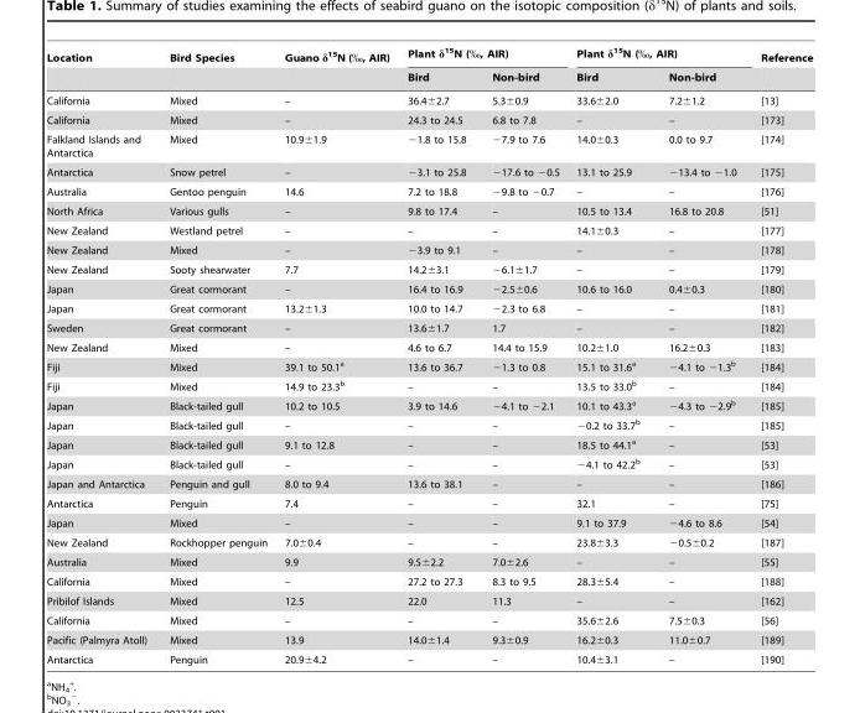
<table><thead><tr><td rowspan="2">Location</td><td rowspan="2">Bird Species</td><td rowspan="2">Guano δ<sup>15</sup>N (‰, AIR)</td><td colspan="2">Plant δ<sup>15</sup>N (‰, AIR)</td><td colspan="2">Plant δ<sup>15</sup>N (‰, AIR)</td><td rowspan="2">Reference</td></tr><tr><td>Bird</td><td>Non-bird</td><td>Bird</td><td>Non-bird</td></tr></thead><tbody><tr><td>California</td><td>Mixed</td><td>–</td><td>36.4±2.7</td><td>5.3±0.9</td><td>33.6±2.0</td><td>7.2±1.2</td><td>[13]</td></tr><tr><td>California</td><td>Mixed</td><td>–</td><td>24.3 to 24.5</td><td>6.8 to 7.8</td><td>–</td><td>–</td><td>[173]</td></tr><tr><td>Falkland Islands and Antarctica</td><td>Mixed</td><td>10.9±1.9</td><td>−1.8 to 15.8</td><td>−7.9 to 7.6</td><td>14.0±0.3</td><td>0.0 to 9.7</td><td>[174]</td></tr><tr><td>Antarctica</td><td>Snow petrel</td><td>–</td><td>−3.1 to 25.8</td><td>−17.6 to −0.5</td><td>13.1 to 25.9</td><td>−13.4 to −1.0</td><td>[175]</td></tr><tr><td>Australia</td><td>Gentoo penguin</td><td>14.6</td><td>7.2 to 18.8</td><td>−9.8 to −0.7</td><td>–</td><td>–</td><td>[176]</td></tr><tr><td>North Africa</td><td>Various gulls</td><td>–</td><td>9.8 to 17.4</td><td>–</td><td>10.5 to 13.4</td><td>16.8 to 20.8</td><td>[51]</td></tr><tr><td>New Zealand</td><td>Westland petrel</td><td>–</td><td>–</td><td>–</td><td>14.1±0.3</td><td>–</td><td>[177]</td></tr><tr><td>New Zealand</td><td>Mixed</td><td>–</td><td>−3.9 to 9.1</td><td>–</td><td>–</td><td>–</td><td>[178]</td></tr><tr><td>New Zealand</td><td>Sooty shearwater</td><td>7.7</td><td>14.2±3.1</td><td>−6.1±1.7</td><td>–</td><td>–</td><td>[179]</td></tr><tr><td>Japan</td><td>Great cormorant</td><td>–</td><td>16.4 to 16.9</td><td>−2.5±0.6</td><td>10.6 to 16.0</td><td>0.4±0.3</td><td>[180]</td></tr><tr><td>Japan</td><td>Great cormorant</td><td>13.2±1.3</td><td>10.0 to 14.7</td><td>−2.3 to 6.8</td><td>–</td><td>–</td><td>[181]</td></tr><tr><td>Sweden</td><td>Great cormorant</td><td>–</td><td>13.6±1.7</td><td>1.7</td><td>–</td><td>–</td><td>[182]</td></tr><tr><td>New Zealand</td><td>Mixed</td><td>–</td><td>4.6 to 6.7</td><td>14.4 to 15.9</td><td>10.2±1.0</td><td>16.2±0.3</td><td>[183]</td></tr><tr><td>Fiji</td><td>Mixed</td><td>39.1 to 50.1<sup>a</sup></td><td>13.6 to 36.7</td><td>−1.3 to 0.8</td><td>15.1 to 31.6<sup>a</sup></td><td>−4.1 to −1.3<sup>b</sup></td><td>[184]</td></tr><tr><td>Fiji</td><td>Mixed</td><td>14.9 to 23.3<sup>b</sup></td><td>–</td><td>–</td><td>13.5 to 33.0<sup>b</sup></td><td>–</td><td>[184]</td></tr><tr><td>Japan</td><td>Black-tailed gull</td><td>10.2 to 10.5</td><td>3.9 to 14.6</td><td>−4.1 to −2.1</td><td>10.1 to 43.3<sup>a</sup></td><td>−4.3 to −2.9<sup>b</sup></td><td>[185]</td></tr><tr><td>Japan</td><td>Black-tailed gull</td><td>–</td><td>–</td><td>–</td><td>−0.2 to 33.7<sup>b</sup></td><td>–</td><td>[185]</td></tr><tr><td>Japan</td><td>Black-tailed gull</td><td>9.1 to 12.8</td><td>–</td><td>–</td><td>18.5 to 44.1<sup>a</sup></td><td>–</td><td>[53]</td></tr><tr><td>Japan</td><td>Black-tailed gull</td><td>–</td><td>–</td><td>–</td><td>−4.1 to 42.2<sup>b</sup></td><td>–</td><td>[53]</td></tr><tr><td>Japan and Antarctica</td><td>Penguin and gull</td><td>8.0 to 9.4</td><td>13.6 to 38.1</td><td>–</td><td>–</td><td>–</td><td>[186]</td></tr><tr><td>Antarctica</td><td>Penguin</td><td>7.4</td><td>–</td><td>–</td><td>32.1</td><td>–</td><td>[75]</td></tr><tr><td>Japan</td><td>Mixed</td><td>–</td><td>–</td><td>–</td><td>9.1 to 37.9</td><td>−4.6 to 8.6</td><td>[54]</td></tr><tr><td>New Zealand</td><td>Rockhopper penguin</td><td>7.0±0.4</td><td>–</td><td>–</td><td>23.8±3.3</td><td>−0.5±0.2</td><td>[187]</td></tr><tr><td>Australia</td><td>Mixed</td><td>9.9</td><td>9.5±2.2</td><td>7.0±2.6</td><td>–</td><td>–</td><td>[55]</td></tr><tr><td>California</td><td>Mixed</td><td>–</td><td>27.2 to 27.3</td><td>8.3 to 9.5</td><td>28.3±5.4</td><td>–</td><td>[188]</td></tr><tr><td>Pribilof Islands</td><td>Mixed</td><td>12.5</td><td>22.0</td><td>11.3</td><td>–</td><td>–</td><td>[162]</td></tr><tr><td>California</td><td>Mixed</td><td>–</td><td>–</td><td>–</td><td>35.6±2.6</td><td>7.5±0.3</td><td>[56]</td></tr><tr><td>Pacific (Palmyra Atoll)</td><td>Mixed</td><td>13.9</td><td>14.0±1.4</td><td>9.3±0.9</td><td>16.2±0.3</td><td>11.0±0.7</td><td>[189]</td></tr><tr><td>Antarctica</td><td>Penguin</td><td>20.9±4.2</td><td>–</td><td>–</td><td>10.4±3.1</td><td>–</td><td>[190]</td></tr></tbody></table>